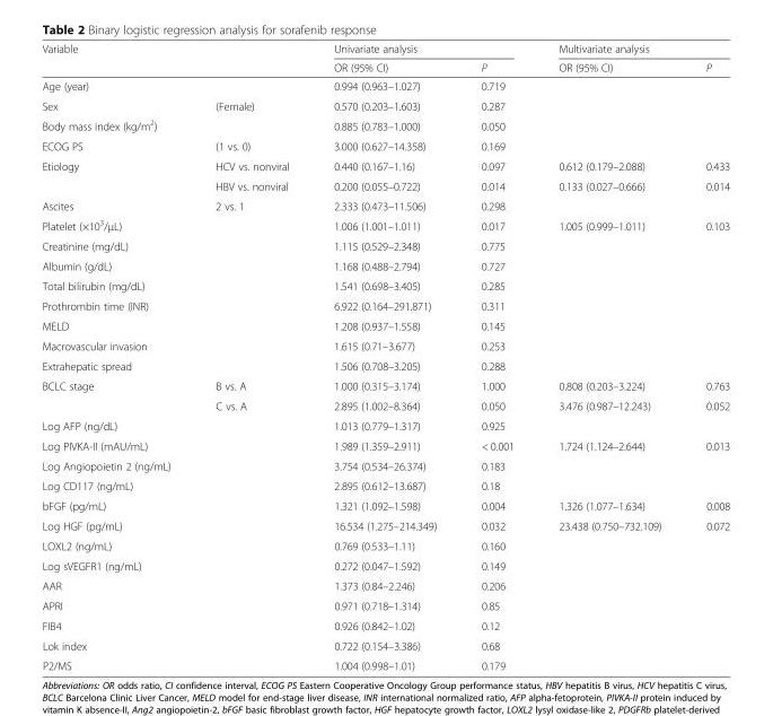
<table><thead><tr><td rowspan="2">Variable</td><td rowspan="2"></td><td colspan="2">Univariate analysis</td><td colspan="2">Multivariate analysis</td></tr><tr><td>OR (95% CI)</td><td>P</td><td>OR (95% CI)</td><td>P</td></tr></thead><tbody><tr><td>Age (year)</td><td></td><td>0.994 (0.963–1.027)</td><td>0.719</td><td></td><td></td></tr><tr><td>Sex</td><td>(Female)</td><td>0.570 (0.203–1.603)</td><td>0.287</td><td></td><td></td></tr><tr><td>Body mass index (kg/m<sup>2</sup>)</td><td></td><td>0.885 (0.783–1.000)</td><td>0.050</td><td></td><td></td></tr><tr><td>ECOG PS</td><td>(1 vs. 0)</td><td>3.000 (0.627–14.358)</td><td>0.169</td><td></td><td></td></tr><tr><td rowspan="2">Etiology</td><td>HCV vs. nonviral</td><td>0.440 (0.167–1.16)</td><td>0.097</td><td>0.612 (0.179–2.088)</td><td>0.433</td></tr><tr><td>HBV vs. nonviral</td><td>0.200 (0.055–0.722)</td><td>0.014</td><td>0.133 (0.027–0.666)</td><td>0.014</td></tr><tr><td>Ascites</td><td>2 vs. 1</td><td>2.333 (0.473–11.506)</td><td>0.298</td><td></td><td></td></tr><tr><td>Platelet (×10<sup>3</sup>/μL)</td><td></td><td>1.006 (1.001–1.011)</td><td>0.017</td><td>1.005 (0.999–1.011)</td><td>0.103</td></tr><tr><td>Creatinine (mg/dL)</td><td></td><td>1.115 (0.529–2.348)</td><td>0.775</td><td></td><td></td></tr><tr><td>Albumin (g/dL)</td><td></td><td>1.168 (0.488–2.794)</td><td>0.727</td><td></td><td></td></tr><tr><td>Total bilirubin (mg/dL)</td><td></td><td>1.541 (0.698–3.405)</td><td>0.285</td><td></td><td></td></tr><tr><td>Prothrombin time (INR)</td><td></td><td>6.922 (0.164–291.871)</td><td>0.311</td><td></td><td></td></tr><tr><td>MELD</td><td></td><td>1.208 (0.937–1.558)</td><td>0.145</td><td></td><td></td></tr><tr><td>Macrovascular invasion</td><td></td><td>1.615 (0.71–3.677)</td><td>0.253</td><td></td><td></td></tr><tr><td>Extrahepatic spread</td><td></td><td>1.506 (0.708–3.205)</td><td>0.288</td><td></td><td></td></tr><tr><td rowspan="2">BCLC stage</td><td>B vs. A</td><td>1.000 (0.315–3.174)</td><td>1.000</td><td>0.808 (0.203–3.224)</td><td>0.763</td></tr><tr><td>C vs. A</td><td>2.895 (1.002–8.364)</td><td>0.050</td><td>3.476 (0.987–12.243)</td><td>0.052</td></tr><tr><td>Log AFP (ng/dL)</td><td></td><td>1.013 (0.779–1.317)</td><td>0.925</td><td></td><td></td></tr><tr><td>Log PIVKA-II (mAU/mL)</td><td></td><td>1.989 (1.359–2.911)</td><td>&lt; 0.001</td><td>1.724 (1.124–2.644)</td><td>0.013</td></tr><tr><td>Log Angiopoietin 2 (ng/mL)</td><td></td><td>3.754 (0.534–26.374)</td><td>0.183</td><td></td><td></td></tr><tr><td>Log CD117 (ng/mL)</td><td></td><td>2.895 (0.612–13.687)</td><td>0.18</td><td></td><td></td></tr><tr><td>bFGF (pg/mL)</td><td></td><td>1.321 (1.092–1.598)</td><td>0.004</td><td>1.326 (1.077–1.634)</td><td>0.008</td></tr><tr><td>Log HGF (pg/mL)</td><td></td><td>16.534 (1.275–214.349)</td><td>0.032</td><td>23.438 (0.750–732.109)</td><td>0.072</td></tr><tr><td>LOXL2 (ng/mL)</td><td></td><td>0.769 (0.533–1.11)</td><td>0.160</td><td></td><td></td></tr><tr><td>Log sVEGFR1 (ng/mL)</td><td></td><td>0.272 (0.047–1.592)</td><td>0.149</td><td></td><td></td></tr><tr><td>AAR</td><td></td><td>1.373 (0.84–2.246)</td><td>0.206</td><td></td><td></td></tr><tr><td>APRI</td><td></td><td>0.971 (0.718–1.314)</td><td>0.85</td><td></td><td></td></tr><tr><td>FIB4</td><td></td><td>0.926 (0.842–1.02)</td><td>0.12</td><td></td><td></td></tr><tr><td>Lok index</td><td></td><td>0.722 (0.154–3.386)</td><td>0.68</td><td></td><td></td></tr><tr><td>P2/MS</td><td></td><td>1.004 (0.998–1.01)</td><td>0.179</td><td></td><td></td></tr></tbody></table>